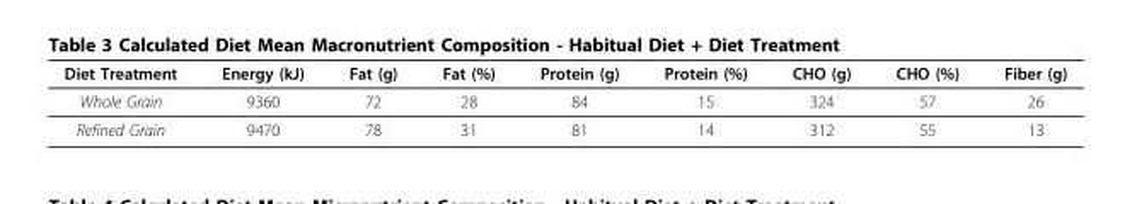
<table><thead><tr><td>Diet Treatment</td><td>Energy (kJ)</td><td>Fat (g)</td><td>Fat (%)</td><td>Protein (g)</td><td>Protein (%)</td><td>CHO (g)</td><td>CHO (%)</td><td>Fiber (g)</td></tr></thead><tbody><tr><td>Whole Grain</td><td>9360</td><td>72</td><td>28</td><td>84</td><td>15</td><td>324</td><td>57</td><td>26</td></tr><tr><td>Refined Grain</td><td>9470</td><td>78</td><td>31</td><td>81</td><td>14</td><td>312</td><td>55</td><td>13</td></tr></tbody></table>